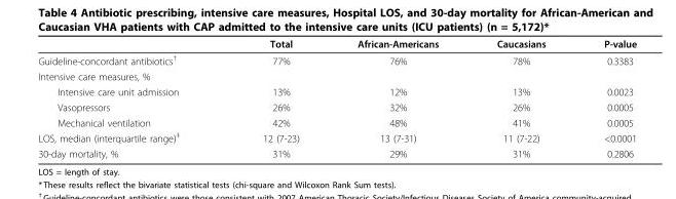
<table><thead><tr><td></td><td>Total</td><td>African-Americans</td><td>Caucasians</td><td>P-value</td></tr></thead><tbody><tr><td>Guideline-concordant antibiotics<sup>†</sup></td><td>77%</td><td>76%</td><td>78%</td><td>0.3383</td></tr><tr><td colspan="5">Intensive care measures, %</td></tr><tr><td>Intensive care unit admission</td><td>13%</td><td>12%</td><td>13%</td><td>0.0023</td></tr><tr><td>Vasopressors</td><td>26%</td><td>32%</td><td>26%</td><td>0.0005</td></tr><tr><td>Mechanical ventilation</td><td>42%</td><td>48%</td><td>41%</td><td>0.0005</td></tr><tr><td>LOS, median (interquartile range)<sup>‡</sup></td><td>12 (7-23)</td><td>13 (7-31)</td><td>11 (7-22)</td><td>&lt;0.0001</td></tr><tr><td>30-day mortality, %</td><td>31%</td><td>29%</td><td>31%</td><td>0.2806</td></tr></tbody></table>